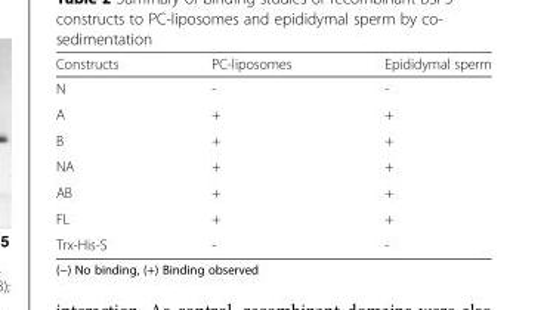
<table><thead><tr><td>Constructs</td><td>PC-liposomes</td><td>Epididymal sperm</td></tr></thead><tbody><tr><td>N</td><td>-</td><td>-</td></tr><tr><td>A</td><td>+</td><td>+</td></tr><tr><td>B</td><td>+</td><td>+</td></tr><tr><td>NA</td><td>+</td><td>+</td></tr><tr><td>AB</td><td>+</td><td>+</td></tr><tr><td>FL</td><td>+</td><td>+</td></tr><tr><td>Trx-His-S</td><td>-</td><td>-</td></tr></tbody></table>